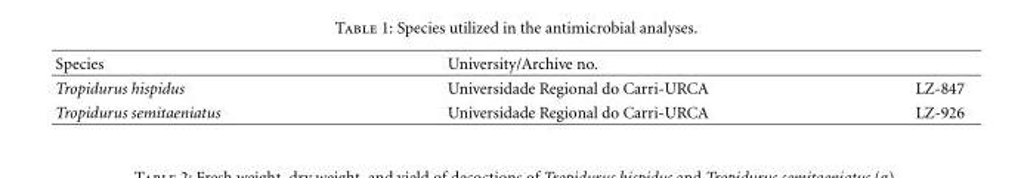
<table><thead><tr><td>Species</td><td>University/Archive no.</td><td></td></tr></thead><tbody><tr><td>Tropidurus hispidus</td><td>Universidade Regional do Carri-URCA</td><td>LZ-847</td></tr><tr><td>Tropidurus semitaeniatus</td><td>Universidade Regional do Carri-URCA</td><td>LZ-926</td></tr></tbody></table>